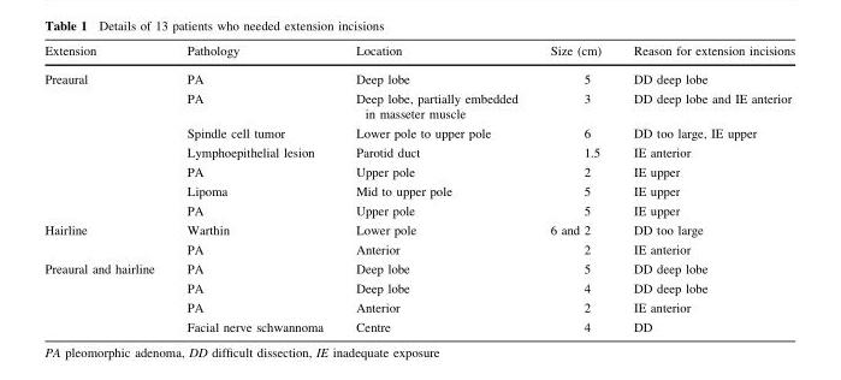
<table><thead><tr><td>Extension</td><td>Pathology</td><td>Location</td><td>Size (cm)</td><td>Reason for extension incisions</td></tr></thead><tbody><tr><td rowspan="7">Preaural</td><td>PA</td><td>Deep lobe</td><td>5</td><td>DD deep lobe</td></tr><tr><td>PA</td><td>Deep lobe, partially embedded in masseter muscle</td><td>3</td><td>DD deep lobe and IE anterior</td></tr><tr><td>Spindle cell tumor</td><td>Lower pole to upper pole</td><td>6</td><td>DD too large, IE upper</td></tr><tr><td>Lymphoepithelial lesion</td><td>Parotid duct</td><td>1.5</td><td>IE anterior</td></tr><tr><td>PA</td><td>Upper pole</td><td>2</td><td>IE upper</td></tr><tr><td>Lipoma</td><td>Mid to upper pole</td><td>5</td><td>IE upper</td></tr><tr><td>PA</td><td>Upper pole</td><td>5</td><td>IE upper</td></tr><tr><td rowspan="2">Hairline</td><td>Warthin</td><td>Lower pole</td><td>6 and 2</td><td>DD too large</td></tr><tr><td>PA</td><td>Anterior</td><td>2</td><td>IE anterior</td></tr><tr><td rowspan="4">Preaural and hairline</td><td>PA</td><td>Deep lobe</td><td>5</td><td>DD deep lobe</td></tr><tr><td>PA</td><td>Deep lobe</td><td>4</td><td>DD deep lobe</td></tr><tr><td>PA</td><td>Anterior</td><td>2</td><td>IE anterior</td></tr><tr><td>Facial nerve schwannoma</td><td>Centre</td><td>4</td><td>DD</td></tr></tbody></table>